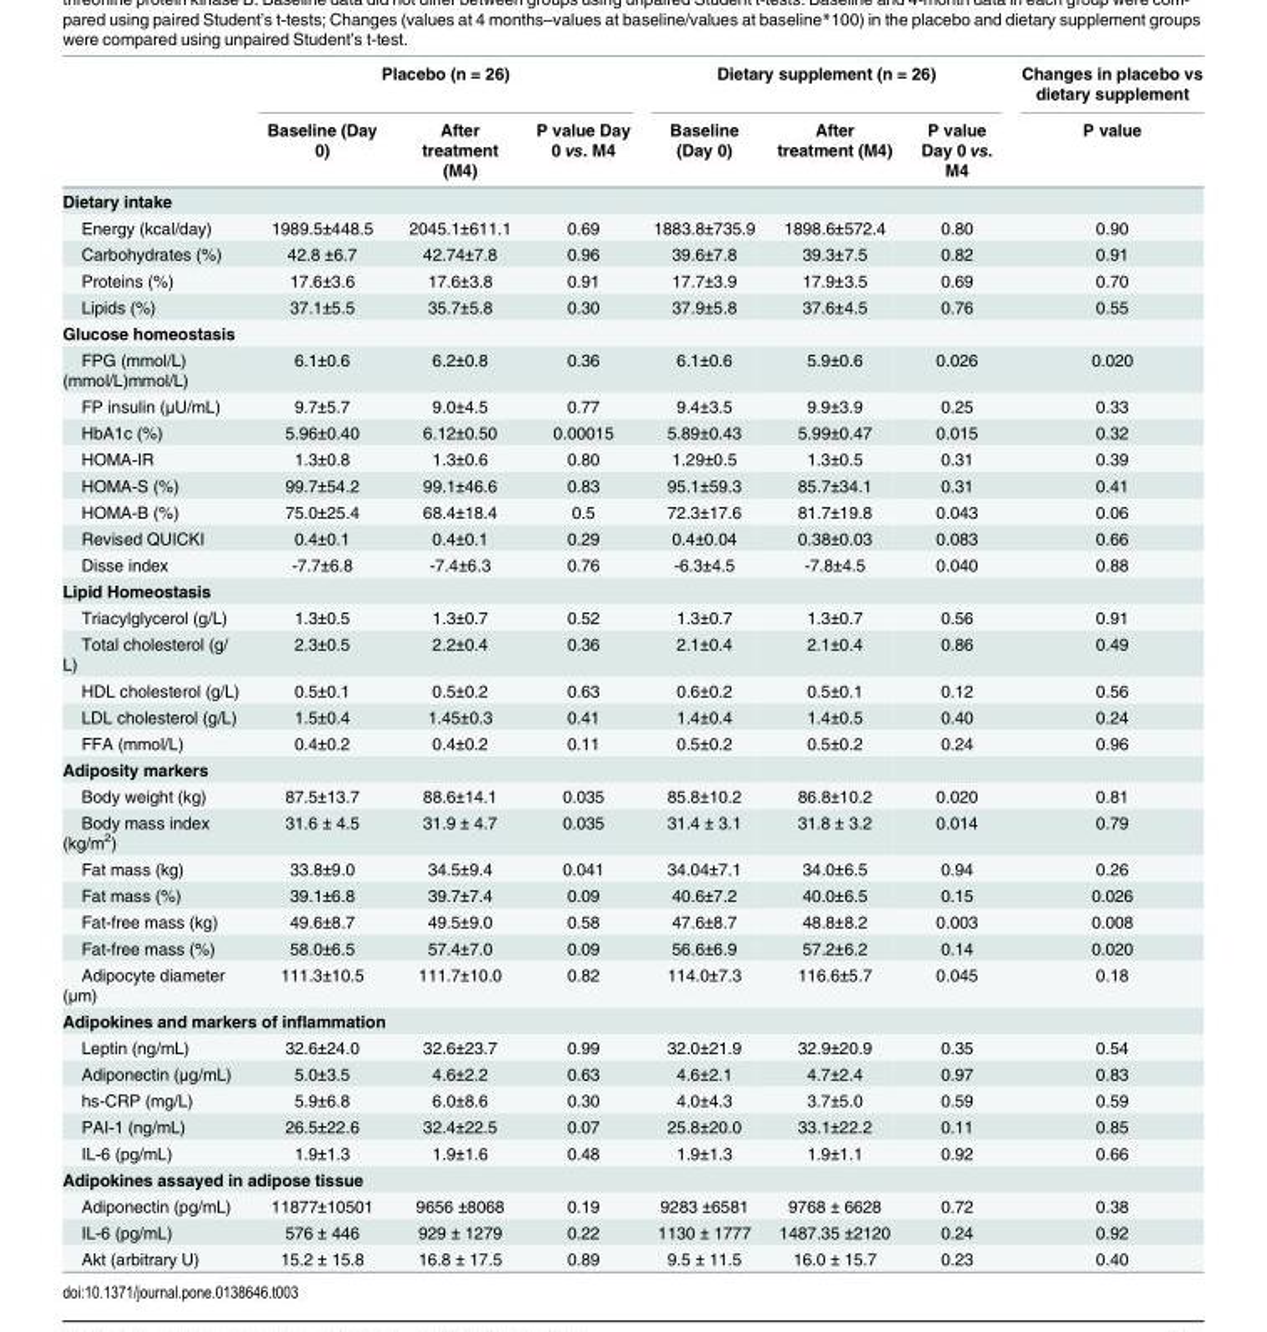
<table><thead><tr><td rowspan="2"></td><td colspan="3">Placebo (n = 26)</td><td colspan="3">Dietary supplement (n = 26)</td><td rowspan="2">Changes in placebo vs dietary supplement P value</td></tr><tr><td>Baseline (Day 0)</td><td>After treatment (M4)</td><td>P value Day 0 vs. M4</td><td>Baseline (Day 0)</td><td>After treatment (M4)</td><td>P value Day 0 vs. M4</td></tr></thead><tbody><tr><td colspan="8">Dietary intake</td></tr><tr><td>Energy (kcal/day)</td><td>1989.5±448.5</td><td>2045.1±611.1</td><td>0.69</td><td>1883.8±735.9</td><td>1898.6±572.4</td><td>0.80</td><td>0.90</td></tr><tr><td>Carbohydrates (%)</td><td>42.8 ±6.7</td><td>42.74±7.8</td><td>0.96</td><td>39.6±7.8</td><td>39.3±7.5</td><td>0.82</td><td>0.91</td></tr><tr><td>Proteins (%)</td><td>17.6±3.6</td><td>17.6±3.8</td><td>0.91</td><td>17.7±3.9</td><td>17.9±3.5</td><td>0.69</td><td>0.70</td></tr><tr><td>Lipids (%)</td><td>37.1±5.5</td><td>35.7±5.8</td><td>0.30</td><td>37.9±5.8</td><td>37.6±4.5</td><td>0.76</td><td>0.55</td></tr><tr><td colspan="8">Glucose homeostasis</td></tr><tr><td>FPG (mmol/L) (mmol/L)mmol/L)</td><td>6.1±0.6</td><td>6.2±0.8</td><td>0.36</td><td>6.1±0.6</td><td>5.9±0.6</td><td>0.026</td><td>0.020</td></tr><tr><td>FP insulin (μU/mL)</td><td>9.7±5.7</td><td>9.0±4.5</td><td>0.77</td><td>9.4±3.5</td><td>9.9±3.9</td><td>0.25</td><td>0.33</td></tr><tr><td>HbA1c (%)</td><td>5.96±0.40</td><td>6.12±0.50</td><td>0.00015</td><td>5.89±0.43</td><td>5.99±0.47</td><td>0.015</td><td>0.32</td></tr><tr><td>HOMA-IR</td><td>1.3±0.8</td><td>1.3±0.6</td><td>0.80</td><td>1.29±0.5</td><td>1.3±0.5</td><td>0.31</td><td>0.39</td></tr><tr><td>HOMA-S (%)</td><td>99.7±54.2</td><td>99.1±46.6</td><td>0.83</td><td>95.1±59.3</td><td>85.7±34.1</td><td>0.31</td><td>0.41</td></tr><tr><td>HOMA-B (%)</td><td>75.0±25.4</td><td>68.4±18.4</td><td>0.5</td><td>72.3±17.6</td><td>81.7±19.8</td><td>0.043</td><td>0.06</td></tr><tr><td>Revised QUICKI</td><td>0.4±0.1</td><td>0.4±0.1</td><td>0.29</td><td>0.4±0.04</td><td>0.38±0.03</td><td>0.083</td><td>0.66</td></tr><tr><td>Disse index</td><td>-7.7±6.8</td><td>-7.4±6.3</td><td>0.76</td><td>-6.3±4.5</td><td>-7.8±4.5</td><td>0.040</td><td>0.88</td></tr><tr><td colspan="8">Lipid Homeostasis</td></tr><tr><td>Triacylglycerol (g/L)</td><td>1.3±0.5</td><td>1.3±0.7</td><td>0.52</td><td>1.3±0.7</td><td>1.3±0.7</td><td>0.56</td><td>0.91</td></tr><tr><td>Total cholesterol (g/ L)</td><td>2.3±0.5</td><td>2.2±0.4</td><td>0.36</td><td>2.1±0.4</td><td>2.1±0.4</td><td>0.86</td><td>0.49</td></tr><tr><td>HDL cholesterol (g/L)</td><td>0.5±0.1</td><td>0.5±0.2</td><td>0.63</td><td>0.6±0.2</td><td>0.5±0.1</td><td>0.12</td><td>0.56</td></tr><tr><td>LDL cholesterol (g/L)</td><td>1.5±0.4</td><td>1.45±0.3</td><td>0.41</td><td>1.4±0.4</td><td>1.4±0.5</td><td>0.40</td><td>0.24</td></tr><tr><td>FFA (mmol/L)</td><td>0.4±0.2</td><td>0.4±0.2</td><td>0.11</td><td>0.5±0.2</td><td>0.5±0.2</td><td>0.24</td><td>0.96</td></tr><tr><td colspan="8">Adiposity markers</td></tr><tr><td>Body weight (kg)</td><td>87.5±13.7</td><td>88.6±14.1</td><td>0.035</td><td>85.8±10.2</td><td>86.8±10.2</td><td>0.020</td><td>0.81</td></tr><tr><td>Body mass index (kg/m<sup>2</sup>)</td><td>31.6 ± 4.5</td><td>31.9 ± 4.7</td><td>0.035</td><td>31.4 ± 3.1</td><td>31.8 ± 3.2</td><td>0.014</td><td>0.79</td></tr><tr><td>Fat mass (kg)</td><td>33.8±9.0</td><td>34.5±9.4</td><td>0.041</td><td>34.04±7.1</td><td>34.0±6.5</td><td>0.94</td><td>0.26</td></tr><tr><td>Fat mass (%)</td><td>39.1±6.8</td><td>39.7±7.4</td><td>0.09</td><td>40.6±7.2</td><td>40.0±6.5</td><td>0.15</td><td>0.026</td></tr><tr><td>Fat-free mass (kg)</td><td>49.6±8.7</td><td>49.5±9.0</td><td>0.58</td><td>47.6±8.7</td><td>48.8±8.2</td><td>0.003</td><td>0.008</td></tr><tr><td>Fat-free mass (%)</td><td>58.0±6.5</td><td>57.4±7.0</td><td>0.09</td><td>56.6±6.9</td><td>57.2±6.2</td><td>0.14</td><td>0.020</td></tr><tr><td>Adipocyte diameter (μm)</td><td>111.3±10.5</td><td>111.7±10.0</td><td>0.82</td><td>114.0±7.3</td><td>116.6±5.7</td><td>0.045</td><td>0.18</td></tr><tr><td colspan="8">Adipokines and markers of inflammation</td></tr><tr><td>Leptin (ng/mL)</td><td>32.6±24.0</td><td>32.6±23.7</td><td>0.99</td><td>32.0±21.9</td><td>32.9±20.9</td><td>0.35</td><td>0.54</td></tr><tr><td>Adiponectin (μg/mL)</td><td>5.0±3.5</td><td>4.6±2.2</td><td>0.63</td><td>4.6±2.1</td><td>4.7±2.4</td><td>0.97</td><td>0.83</td></tr><tr><td>hs-CRP (mg/L)</td><td>5.9±6.8</td><td>6.0±8.6</td><td>0.30</td><td>4.0±4.3</td><td>3.7±5.0</td><td>0.59</td><td>0.59</td></tr><tr><td>PAI-1 (ng/mL)</td><td>26.5±22.6</td><td>32.4±22.5</td><td>0.07</td><td>25.8±20.0</td><td>33.1±22.2</td><td>0.11</td><td>0.85</td></tr><tr><td>IL-6 (pg/mL)</td><td>1.9±1.3</td><td>1.9±1.6</td><td>0.48</td><td>1.9±1.3</td><td>1.9±1.1</td><td>0.92</td><td>0.66</td></tr><tr><td colspan="8">Adipokines assayed in adipose tissue</td></tr><tr><td>Adiponectin (pg/mL)</td><td>11877±10501</td><td>9656 ±8068</td><td>0.19</td><td>9283 ±6581</td><td>9768 ± 6628</td><td>0.72</td><td>0.38</td></tr><tr><td>IL-6 (pg/mL)</td><td>576 ± 446</td><td>929 ± 1279</td><td>0.22</td><td>1130 ± 1777</td><td>1487.35 ±2120</td><td>0.24</td><td>0.92</td></tr><tr><td>Akt (arbitrary U)</td><td>15.2 ± 15.8</td><td>16.8 ± 17.5</td><td>0.89</td><td>9.5 ± 11.5</td><td>16.0 ± 15.7</td><td>0.23</td><td>0.40</td></tr></tbody></table>